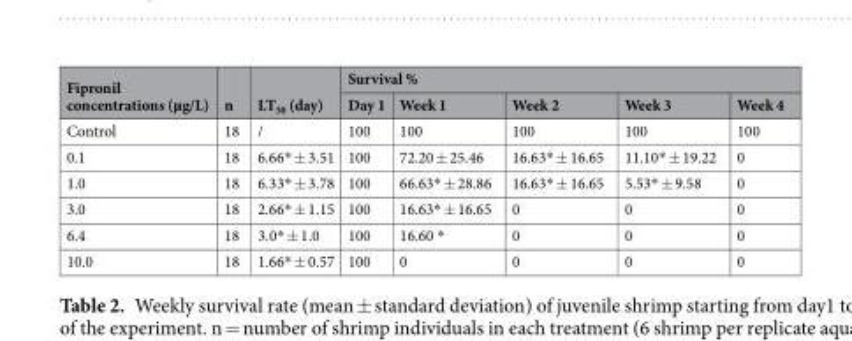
<table><thead><tr><td rowspan="2">Fipronil concentrations (µg/L)</td><td rowspan="2">n</td><td rowspan="2">LT<sub>50</sub> (day)</td><td colspan="5">Survival %</td></tr><tr><td>Day 1</td><td>Week 1</td><td>Week 2</td><td>Week 3</td><td>Week 4</td></tr></thead><tbody><tr><td>Control</td><td>18</td><td>/</td><td>100</td><td>100</td><td>100</td><td>100</td><td>100</td></tr><tr><td>0.1</td><td>18</td><td>6.66* ± 3.51</td><td>100</td><td>72.20 ± 25.46</td><td>16.63* ± 16.65</td><td>11.10* ± 19.22</td><td>0</td></tr><tr><td>1.0</td><td>18</td><td>6.33* ± 3.78</td><td>100</td><td>66.63* ± 28.86</td><td>16.63* ± 16.65</td><td>5.53* ± 9.58</td><td>0</td></tr><tr><td>3.0</td><td>18</td><td>2.66* ± 1.15</td><td>100</td><td>16.63* ± 16.65</td><td>0</td><td>0</td><td>0</td></tr><tr><td>6.4</td><td>18</td><td>3.0* ± 1.0</td><td>100</td><td>16.60 *</td><td>0</td><td>0</td><td>0</td></tr><tr><td>10.0</td><td>18</td><td>1.66* ± 0.57</td><td>100</td><td>0</td><td>0</td><td>0</td><td>0</td></tr></tbody></table>